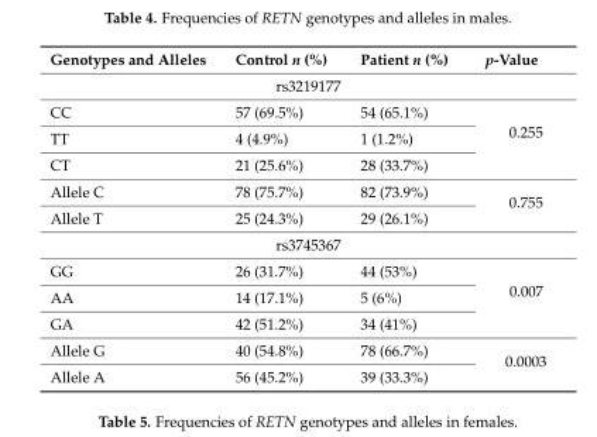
<table><thead><tr><td>Genotypes and Alleles</td><td>Control n (%)</td><td>Patient n (%)</td><td>p-Value</td></tr></thead><tbody><tr><td colspan="4">rs3219177</td></tr><tr><td>CC</td><td>57 (69.5%)</td><td>54 (65.1%)</td><td rowspan="3">0.255</td></tr><tr><td>TT</td><td>4 (4.9%)</td><td>1 (1.2%)</td></tr><tr><td>CT</td><td>21 (25.6%)</td><td>28 (33.7%)</td></tr><tr><td>Allele C</td><td>78 (75.7%)</td><td>82 (73.9%)</td><td rowspan="2">0.755</td></tr><tr><td>Allele T</td><td>25 (24.3%)</td><td>29 (26.1%)</td></tr><tr><td colspan="4">rs3745367</td></tr><tr><td>GG</td><td>26 (31.7%)</td><td>44 (53%)</td><td rowspan="3">0.007</td></tr><tr><td>AA</td><td>14 (17.1%)</td><td>5 (6%)</td></tr><tr><td>GA</td><td>42 (51.2%)</td><td>34 (41%)</td></tr><tr><td>Allele G</td><td>40 (54.8%)</td><td>78 (66.7%)</td><td rowspan="2">0.0003</td></tr><tr><td>Allele A</td><td>56 (45.2%)</td><td>39 (33.3%)</td></tr></tbody></table>